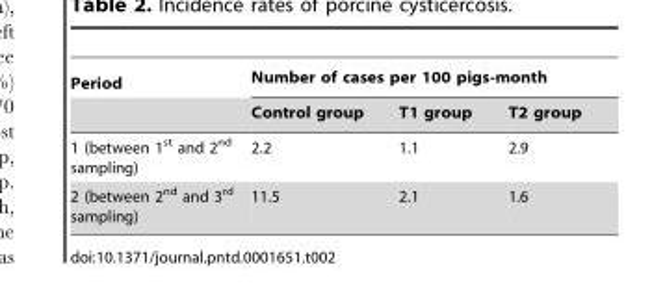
<table><thead><tr><td rowspan="2">Period</td><td colspan="3">Number of cases per 100 pigs-month</td></tr><tr><td>Control group</td><td>T1 group</td><td>T2 group</td></tr></thead><tbody><tr><td>1 (between 1<sup>st</sup> and 2<sup>nd</sup> sampling)</td><td>2.2</td><td>1.1</td><td>2.9</td></tr><tr><td>2 (between 2<sup>nd</sup> and 3<sup>rd</sup> sampling)</td><td>11.5</td><td>2.1</td><td>1.6</td></tr></tbody></table>